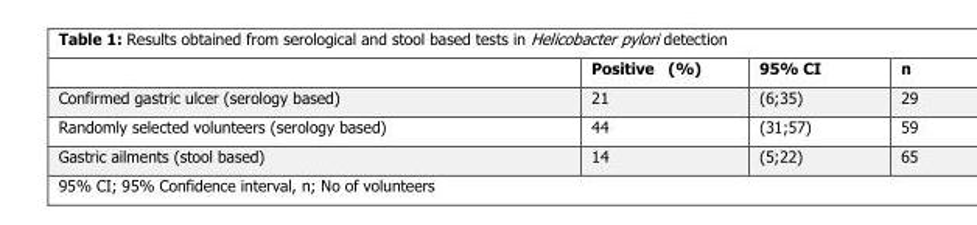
<table><thead><tr><td></td><td>Positive (%)</td><td>95% CI</td><td>n</td></tr></thead><tbody><tr><td>Confirmed gastric ulcer (serology based)</td><td>21</td><td>(6;35)</td><td>29</td></tr><tr><td>Randomly selected volunteers (serology based)</td><td>44</td><td>(31;57)</td><td>59</td></tr><tr><td>Gastric ailments (stool based)</td><td>14</td><td>(5;22)</td><td>65</td></tr></tbody></table>